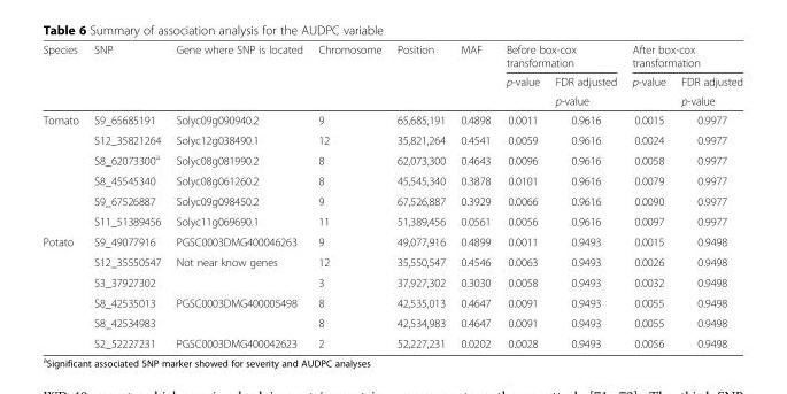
<table><thead><tr><td rowspan="3">Species</td><td rowspan="3">SNP</td><td rowspan="3">Gene where SNP is located</td><td rowspan="3">Chromosome</td><td rowspan="3">Position</td><td rowspan="3">MAF</td><td colspan="2">Before box-cox transformation</td><td colspan="2">After box-cox transformation</td></tr><tr><td rowspan="2">p-value</td><td rowspan="2">FDR adjusted p-value</td><td rowspan="2">p-value</td><td rowspan="2">FDR adjusted p-value</td></tr><tr></tr></thead><tbody><tr><td rowspan="6">Tomato</td><td>S9_65685191</td><td>Solyc09g090940.2</td><td>9</td><td>65,685,191</td><td>0.4898</td><td>0.0011</td><td>0.9616</td><td>0.0015</td><td>0.9977</td></tr><tr><td>S12_35821264</td><td>Solyc12g038490.1</td><td>12</td><td>35,821,264</td><td>0.4541</td><td>0.0059</td><td>0.9616</td><td>0.0024</td><td>0.9977</td></tr><tr><td>S8_62073300<sup>a</sup></td><td>Solyc08g081990.2</td><td>8</td><td>62,073,300</td><td>0.4643</td><td>0.0096</td><td>0.9616</td><td>0.0058</td><td>0.9977</td></tr><tr><td>S8_45545340</td><td>Solyc08g061260.2</td><td>8</td><td>45,545,340</td><td>0.3878</td><td>0.0101</td><td>0.9616</td><td>0.0079</td><td>0.9977</td></tr><tr><td>S9_67526887</td><td>Solyc09g098450.2</td><td>9</td><td>67,526,887</td><td>0.3929</td><td>0.0066</td><td>0.9616</td><td>0.0090</td><td>0.9977</td></tr><tr><td>S11_51389456</td><td>Solyc11g069690.1</td><td>11</td><td>51,389,456</td><td>0.0561</td><td>0.0056</td><td>0.9616</td><td>0.0097</td><td>0.9977</td></tr><tr><td rowspan="6">Potato</td><td>S9_49077916</td><td>PGSC0003DMG400046263</td><td>9</td><td>49,077,916</td><td>0.4899</td><td>0.0011</td><td>0.9493</td><td>0.0015</td><td>0.9498</td></tr><tr><td>S12_35550547</td><td rowspan="2">Not near know genes</td><td>12</td><td>35,550,547</td><td>0.4546</td><td>0.0063</td><td>0.9493</td><td>0.0026</td><td>0.9498</td></tr><tr><td>S3_37927302</td><td>3</td><td>37,927,302</td><td>0.3030</td><td>0.0058</td><td>0.9493</td><td>0.0032</td><td>0.9498</td></tr><tr><td>S8_42535013</td><td rowspan="2">PGSC0003DMG400005498</td><td>8</td><td>42,535,013</td><td>0.4647</td><td>0.0091</td><td>0.9493</td><td>0.0055</td><td>0.9498</td></tr><tr><td>S8_42534983</td><td>8</td><td>42,534,983</td><td>0.4647</td><td>0.0091</td><td>0.9493</td><td>0.0055</td><td>0.9498</td></tr><tr><td>S2_52227231</td><td>PGSC0003DMG400042623</td><td>2</td><td>52,227,231</td><td>0.0202</td><td>0.0028</td><td>0.9493</td><td>0.0056</td><td>0.9498</td></tr></tbody></table>